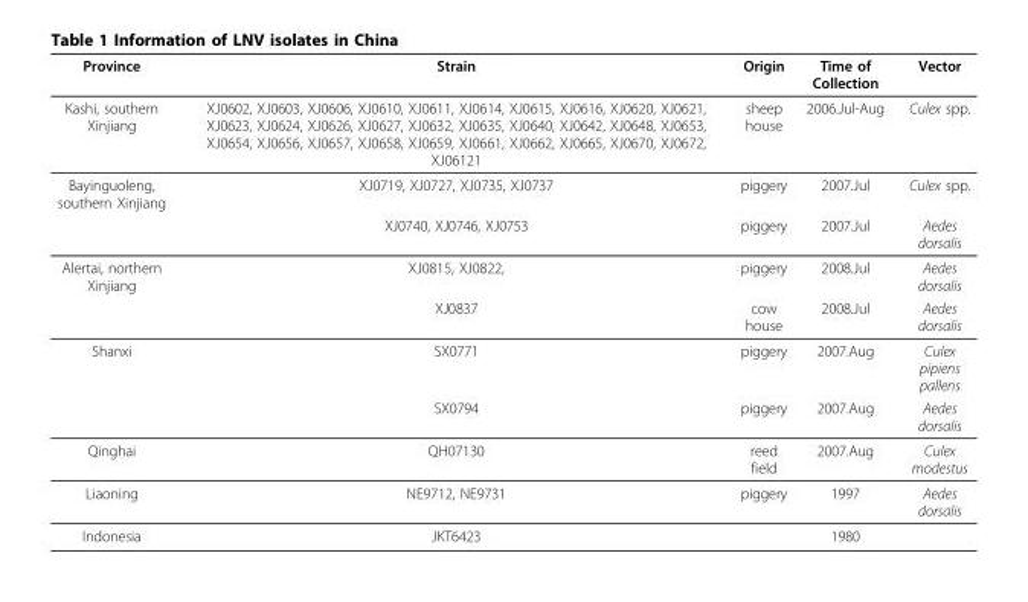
<table><thead><tr><td>Province</td><td>Strain</td><td>Origin</td><td>Time of Collection</td><td>Vector</td></tr></thead><tbody><tr><td>Kashi, southern Xinjiang</td><td>XJ0602, XJ0603, XJ0606, XJ0610, XJ0611, XJ0614, XJ0615, XJ0616, XJ0620, XJ0621, XJ0623, XJ0624, XJ0626, XJ0627, XJ0632, XJ0635, XJ0640, XJ0642, XJ0648, XJ0653, XJ0654, XJ0656, XJ0657, XJ0658, XJ0659, XJ0661, XJ0662, XJ0665, XJ0670, XJ0672, XJ06121</td><td>sheep house</td><td>2006.Jul-Aug</td><td>Culex spp.</td></tr><tr><td rowspan="2">Bayinguoleng, southern Xinjiang</td><td>XJ0719, XJ0727, XJ0735, XJ0737</td><td>piggery</td><td>2007.Jul</td><td>Culex spp.</td></tr><tr><td>XJ0740, XJ0746, XJ0753</td><td>piggery</td><td>2007.Jul</td><td>Aedes dorsalis</td></tr><tr><td rowspan="2">Alertai, northern Xinjiang</td><td>XJ0815, XJ0822,</td><td>piggery</td><td>2008.Jul</td><td>Aedes dorsalis</td></tr><tr><td>XJ0837</td><td>cow house</td><td>2008.Jul</td><td>Aedes dorsalis</td></tr><tr><td rowspan="2">Shanxi</td><td>SX0771</td><td>piggery</td><td>2007.Aug</td><td>Culex pipiens pallens</td></tr><tr><td>SX0794</td><td>piggery</td><td>2007.Aug</td><td>Aedes dorsalis</td></tr><tr><td>Qinghai</td><td>QH07130</td><td>reed field</td><td>2007.Aug</td><td>Culex modestus</td></tr><tr><td>Liaoning</td><td>NE9712, NE9731</td><td>piggery</td><td>1997</td><td>Aedes dorsalis</td></tr><tr><td>Indonesia</td><td>JKT6423</td><td></td><td>1980</td><td></td></tr></tbody></table>